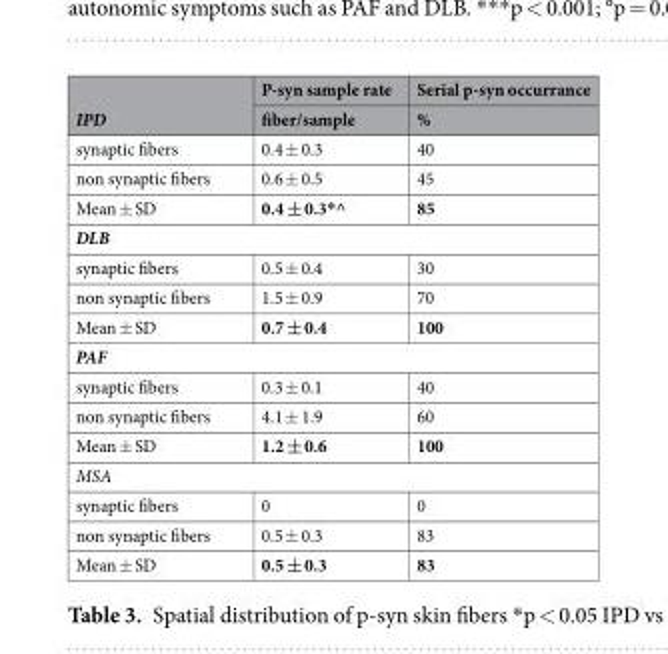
<table><thead><tr><td rowspan="2">IPD</td><td rowspan="2">P-syn sample rate fiber/sample</td><td rowspan="2">Serial p-syn occurrance %</td></tr><tr></tr></thead><tbody><tr><td>synaptic fibers</td><td>0.4 ± 0.3</td><td>40</td></tr><tr><td>non synaptic fibers</td><td>0.6 ± 0.5</td><td>45</td></tr><tr><td>Mean ± SD</td><td>0.4 ± 0.3*^</td><td>85</td></tr><tr><td colspan="3">DLB</td></tr><tr><td>synaptic fibers</td><td>0.5 ± 0.4</td><td>30</td></tr><tr><td>non synaptic fibers</td><td>1.5 ± 0.9</td><td>70</td></tr><tr><td>Mean ± SD</td><td>0.7 ± 0.4</td><td>100</td></tr><tr><td colspan="3">PAF</td></tr><tr><td>synaptic fibers</td><td>0.3 ± 0.1</td><td>40</td></tr><tr><td>non synaptic fibers</td><td>4.1 ± 1.9</td><td>60</td></tr><tr><td>Mean ± SD</td><td>1.2 ± 0.6</td><td>100</td></tr><tr><td colspan="3">MSA</td></tr><tr><td>synaptic fibers</td><td>0</td><td>0</td></tr><tr><td>non synaptic fibers</td><td>0.5 ± 0.3</td><td>83</td></tr><tr><td>Mean ± SD</td><td>0.5 ± 0.3</td><td>83</td></tr></tbody></table>